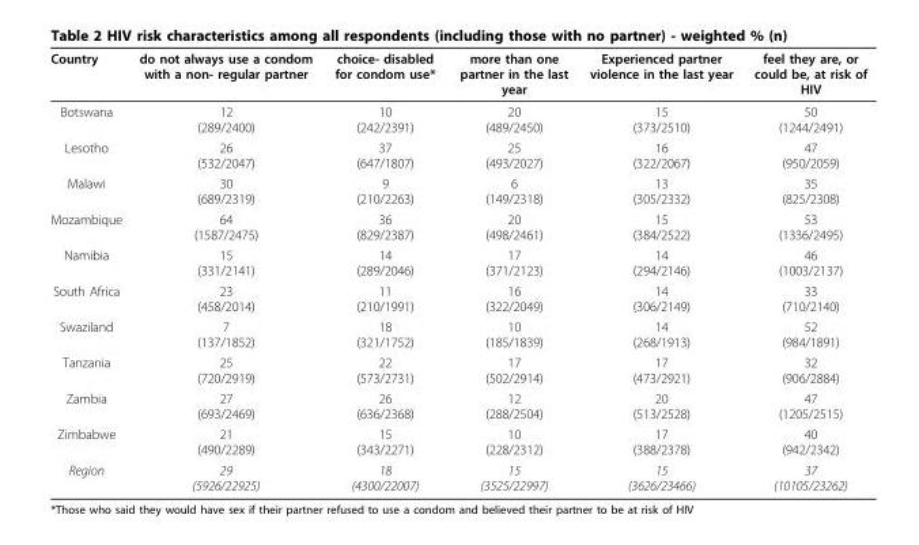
<table><thead><tr><td>Country</td><td>do not always use a condom with a non- regular partner</td><td>choice- disabled for condom use*</td><td>more than one partner in the last year</td><td>Experienced partner violence in the last year</td><td>feel they are, or could be, at risk of HIV</td></tr></thead><tbody><tr><td>Botswana</td><td>12 (289/2400)</td><td>10 (242/2391)</td><td>20 (489/2450)</td><td>15 (373/2510)</td><td>50 (1244/2491)</td></tr><tr><td>Lesotho</td><td>26 (532/2047)</td><td>37 (647/1807)</td><td>25 (493/2027)</td><td>16 (322/2067)</td><td>47 (950/2059)</td></tr><tr><td>Malawi</td><td>30 (689/2319)</td><td>9 (210/2263)</td><td>6 (149/2318)</td><td>13 (305/2332)</td><td>35 (825/2308)</td></tr><tr><td>Mozambique</td><td>64 (1587/2475)</td><td>36 (829/2387)</td><td>20 (498/2461)</td><td>15 (384/2522)</td><td>53 (1336/2495)</td></tr><tr><td>Namibia</td><td>15 (331/2141)</td><td>14 (289/2046)</td><td>17 (371/2123)</td><td>14 (294/2146)</td><td>46 (1003/2137)</td></tr><tr><td>South Africa</td><td>23 (458/2014)</td><td>11 (210/1991)</td><td>16 (322/2049)</td><td>14 (306/2149)</td><td>33 (710/2140)</td></tr><tr><td>Swaziland</td><td>7 (137/1852)</td><td>18 (321/1752)</td><td>10 (185/1839)</td><td>14 (268/1913)</td><td>52 (984/1891)</td></tr><tr><td>Tanzania</td><td>25 (720/2919)</td><td>22 (573/2731)</td><td>17 (502/2914)</td><td>17 (473/2921)</td><td>32 (906/2884)</td></tr><tr><td>Zambia</td><td>27 (693/2469)</td><td>26 (636/2368)</td><td>12 (288/2504)</td><td>20 (513/2528)</td><td>47 (1205/2515)</td></tr><tr><td>Zimbabwe</td><td>21 (490/2289)</td><td>15 (343/2271)</td><td>10 (228/2312)</td><td>17 (388/2378)</td><td>40 (942/2342)</td></tr><tr><td>Region</td><td>29 (5926/22925)</td><td>18 (4300/22007)</td><td>15 (3525/22997)</td><td>15 (3626/23466)</td><td>37 (10105/23262)</td></tr></tbody></table>